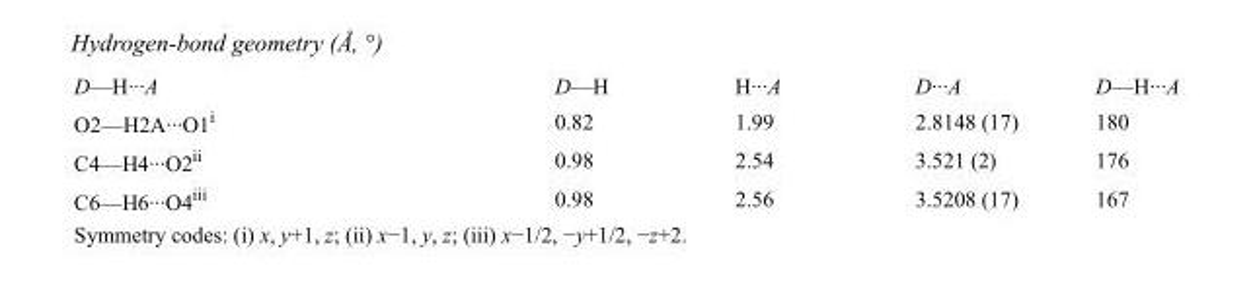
<table><tbody><tr><td>D—H···A</td><td>D—H</td><td>H···A</td><td>D···A</td><td>D—H···A</td></tr><tr><td>O2—H2A···O1<sup>i</sup></td><td>0.82</td><td>1.99</td><td>2.8148 (17)</td><td>180</td></tr><tr><td>C4—H4···O2<sup>ii</sup></td><td>0.98</td><td>2.54</td><td>3.521 (2)</td><td>176</td></tr><tr><td>C6—H6···O4<sup>iii</sup></td><td>0.98</td><td>2.56</td><td>3.5208 (17)</td><td>167</td></tr></tbody></table>